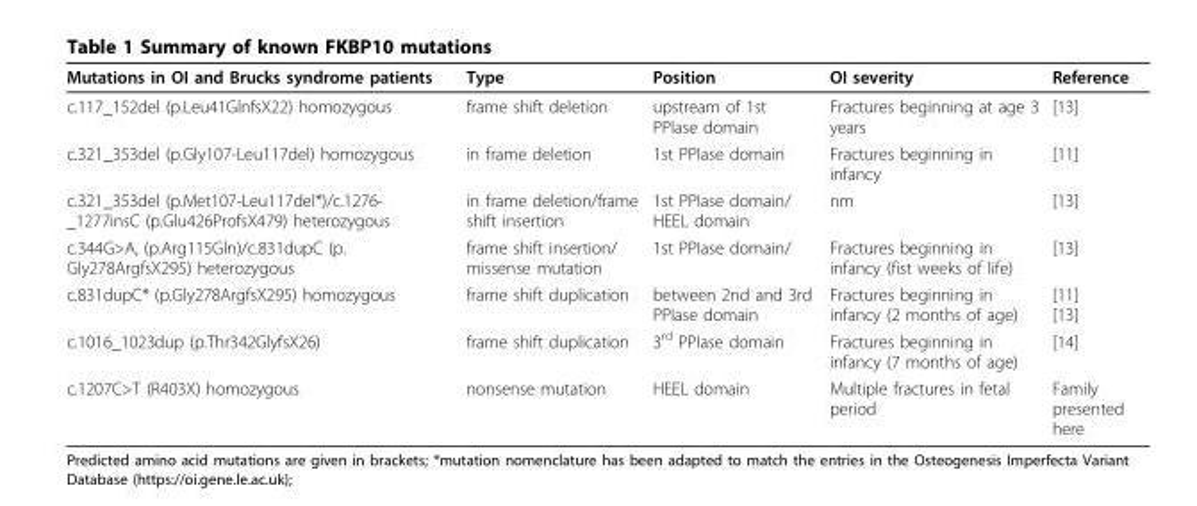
<table><thead><tr><td>Mutations in OI and Brucks syndrome patients</td><td>Type</td><td>Position</td><td>OI severity</td><td>Reference</td></tr></thead><tbody><tr><td>c.117_152del (p.Leu41GlnfsX22) homozygous</td><td>frame shift deletion</td><td>upstream of 1st PPIase domain</td><td>Fractures beginning at age 3 years</td><td>[13]</td></tr><tr><td>c.321_353del (p.Gly107-Leu117del) homozygous</td><td>in frame deletion</td><td>1st PPIase domain</td><td>Fractures beginning in infancy</td><td>[11]</td></tr><tr><td>c.321_353del (p.Met107-Leu117del*)/c.1276- _1277insC (p.Glu426ProfsX479) heterozygous</td><td>in frame deletion/frame shift insertion</td><td>1st PPIase domain/ HEEL domain</td><td>nm</td><td>[13]</td></tr><tr><td>c.344G&gt;A, (p.Arg115Gln)/c.831dupC (p. Gly278ArgfsX295) heterozygous</td><td>frame shift insertion/ missense mutation</td><td>1st PPIase domain/</td><td>Fractures beginning in infancy (fist weeks of life)</td><td>[13]</td></tr><tr><td>c.831dupC* (p.Gly278ArgfsX295) homozygous</td><td>frame shift duplication</td><td>between 2nd and 3rd PPIase domain</td><td>Fractures beginning in infancy (2 months of age)</td><td>[11] [13]</td></tr><tr><td>c.1016_1023dup (p.Thr342GlyfsX26)</td><td>frame shift duplication</td><td>3<sup>rd</sup> PPIase domain</td><td>Fractures beginning in infancy (7 months of age)</td><td>[14]</td></tr><tr><td>c.1207C&gt;T (R403X) homozygous</td><td>nonsense mutation</td><td>HEEL domain</td><td>Multiple fractures in fetal period</td><td>Family presented here</td></tr></tbody></table>